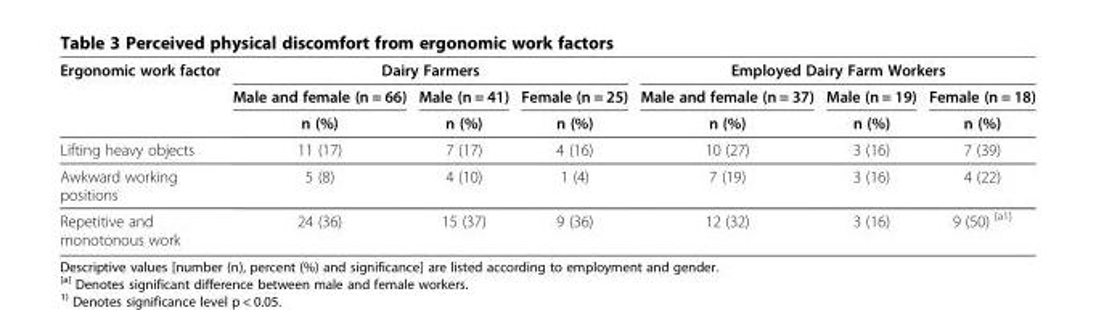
<table><thead><tr><td rowspan="3">Ergonomic work factor</td><td colspan="3">Dairy Farmers</td><td colspan="3">Employed Dairy Farm Workers</td></tr><tr><td rowspan="2">Male and female (n = 66) n (%)</td><td rowspan="2">Male (n = 41) n (%)</td><td rowspan="2">Female (n = 25) n (%)</td><td rowspan="2">Male and female (n = 37) n (%)</td><td rowspan="2">Male (n = 19) n (%)</td><td rowspan="2">Female (n = 18) n (%)</td></tr><tr></tr></thead><tbody><tr><td>Lifting heavy objects</td><td>11 (17)</td><td>7 (17)</td><td>4 (16)</td><td>10 (27)</td><td>3 (16)</td><td>7 (39)</td></tr><tr><td>Awkward working positions</td><td>5 (8)</td><td>4 (10)</td><td>1 (4)</td><td>7 (19)</td><td>3 (16)</td><td>4 (22)</td></tr><tr><td>Repetitive and monotonous work</td><td>24 (36)</td><td>15 (37)</td><td>9 (36)</td><td>12 (32)</td><td>3 (16)</td><td>9 (50) <sup>[a1]</sup></td></tr></tbody></table>